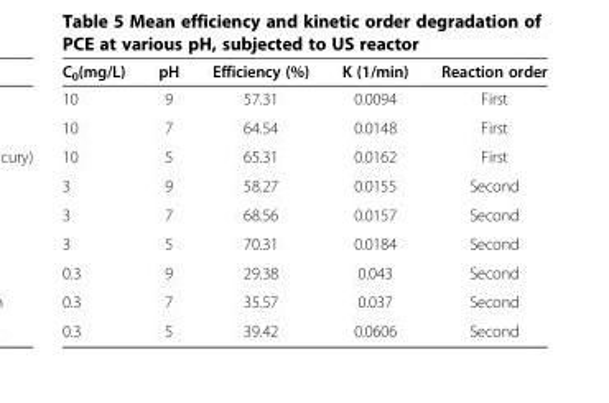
<table><thead><tr><td>C<sub>0</sub>(mg/L)</td><td>pH</td><td>Efficiency (%)</td><td>K (1/min)</td><td>Reaction order</td></tr></thead><tbody><tr><td>10</td><td>9</td><td>57.31</td><td>0.0094</td><td>First</td></tr><tr><td>10</td><td>7</td><td>64.54</td><td>0.0148</td><td>First</td></tr><tr><td>10</td><td>5</td><td>65.31</td><td>0.0162</td><td>First</td></tr><tr><td>3</td><td>9</td><td>58.27</td><td>0.0155</td><td>Second</td></tr><tr><td>3</td><td>7</td><td>68.56</td><td>0.0157</td><td>Second</td></tr><tr><td>3</td><td>5</td><td>70.31</td><td>0.0184</td><td>Second</td></tr><tr><td>0.3</td><td>9</td><td>29.38</td><td>0.043</td><td>Second</td></tr><tr><td>0.3</td><td>7</td><td>35.57</td><td>0.037</td><td>Second</td></tr><tr><td>0.3</td><td>5</td><td>39.42</td><td>0.0606</td><td>Second</td></tr></tbody></table>